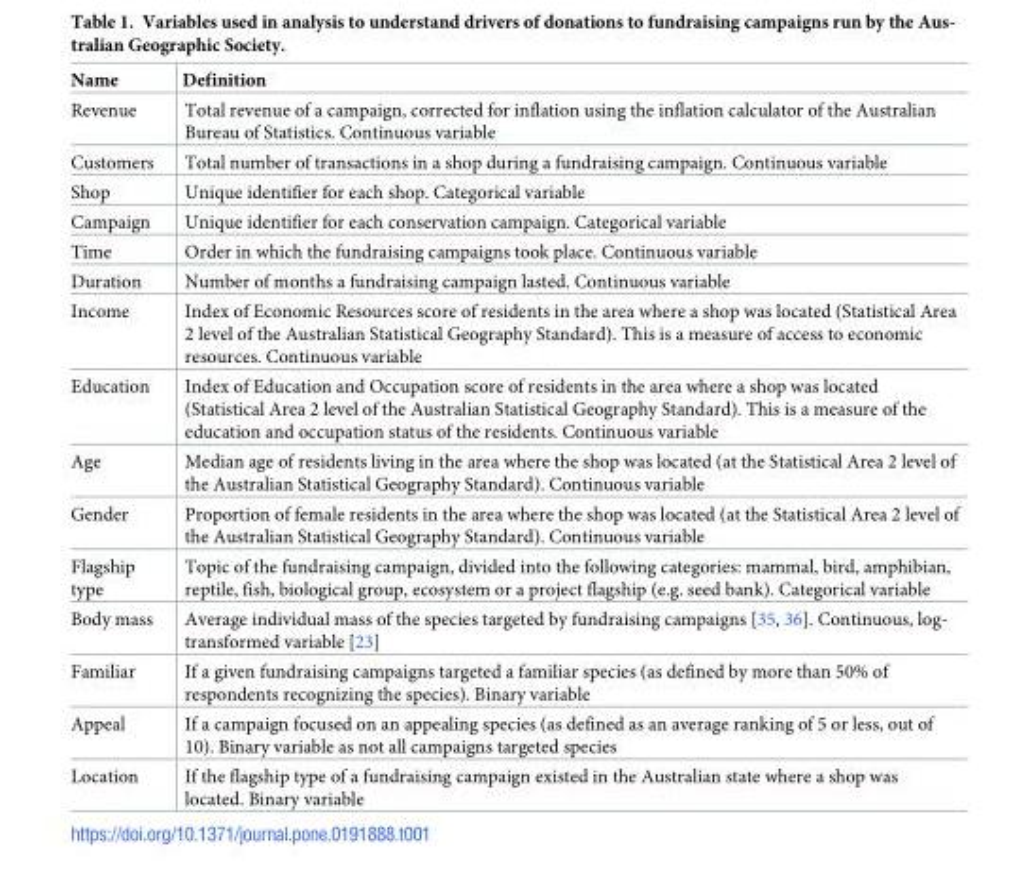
<table><thead><tr><td>Name</td><td>Definition</td></tr></thead><tbody><tr><td>Revenue</td><td>Total revenue of a campaign, corrected for inflation using the inflation calculator of the Australian Bureau of Statistics. Continuous variable</td></tr><tr><td>Customers</td><td>Total number of transactions in a shop during a fundraising campaign. Continuous variable</td></tr><tr><td>Shop</td><td>Unique identifier for each shop. Categorical variable</td></tr><tr><td>Campaign</td><td>Unique identifier for each conservation campaign. Categorical variable</td></tr><tr><td>Time</td><td>Order in which the fundraising campaigns took place. Continuous variable</td></tr><tr><td>Duration</td><td>Number of months a fundraising campaign lasted. Continuous variable</td></tr><tr><td>Income</td><td>Index of Economic Resources score of residents in the area where a shop was located (Statistical Area 2 level of the Australian Statistical Geography Standard). This is a measure of access to economic resources. Continuous variable</td></tr><tr><td>Education</td><td>Index of Education and Occupation score of residents in the area where a shop was located (Statistical Area 2 level of the Australian Statistical Geography Standard). This is a measure of the education and occupation status of the residents. Continuous variable</td></tr><tr><td>Age</td><td>Median age of residents living in the area where the shop was located (at the Statistical Area 2 level of the Australian Statistical Geography Standard). Continuous variable</td></tr><tr><td>Gender</td><td>Proportion of female residents in the area where the shop was located (at the Statistical Area 2 level of the Australian Statistical Geography Standard). Continuous variable</td></tr><tr><td>Flagship type</td><td>Topic of the fundraising campaign, divided into the following categories: mammal, bird, amphibian, reptile, fish, biological group, ecosystem or a project flagship (e.g. seed bank). Categorical variable</td></tr><tr><td>Body mass</td><td>Average individual mass of the species targeted by fundraising campaigns [35, 36]. Continuous, log- transformed variable [23]</td></tr><tr><td>Familiar</td><td>If a given fundraising campaigns targeted a familiar species (as defined by more than 50% of respondents recognizing the species). Binary variable</td></tr><tr><td>Appeal</td><td>If a campaign focused on an appealing species (as defined as an average ranking of 5 or less, out of 10). Binary variable as not all campaigns targeted species</td></tr><tr><td>Location</td><td>If the flagship type of a fundraising campaign existed in the Australian state where a shop was located. Binary variable</td></tr></tbody></table>